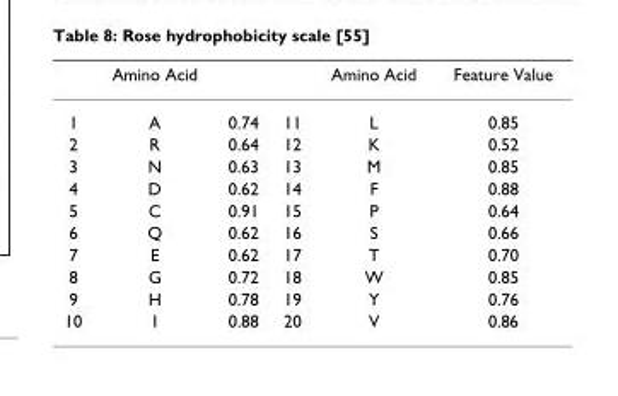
<table><thead><tr><td></td><td>Amino Acid</td><td></td><td></td><td>Amino Acid</td><td>Feature Value</td></tr></thead><tbody><tr><td>1</td><td>A</td><td>0.74</td><td>11</td><td>L</td><td>0.85</td></tr><tr><td>2</td><td>R</td><td>0.64</td><td>12</td><td>K</td><td>0.52</td></tr><tr><td>3</td><td>N</td><td>0.63</td><td>13</td><td>M</td><td>0.85</td></tr><tr><td>4</td><td>D</td><td>0.62</td><td>14</td><td>F</td><td>0.88</td></tr><tr><td>5</td><td>C</td><td>0.91</td><td>15</td><td>P</td><td>0.64</td></tr><tr><td>6</td><td>Q</td><td>0.62</td><td>16</td><td>S</td><td>0.66</td></tr><tr><td>7</td><td>E</td><td>0.62</td><td>17</td><td>T</td><td>0.70</td></tr><tr><td>8</td><td>G</td><td>0.72</td><td>18</td><td>W</td><td>0.85</td></tr><tr><td>9</td><td>H</td><td>0.78</td><td>19</td><td>Y</td><td>0.76</td></tr><tr><td>10</td><td>I</td><td>0.88</td><td>20</td><td>V</td><td>0.86</td></tr></tbody></table>